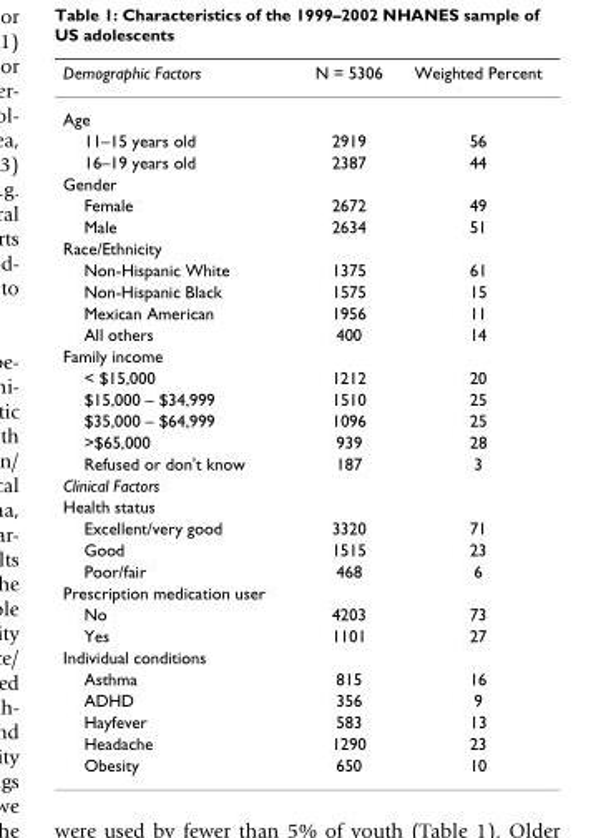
<table><thead><tr><td>Demographic Factors</td><td>N = 5306</td><td>Weighted Percent</td></tr></thead><tbody><tr><td colspan="3">Age</td></tr><tr><td>11–15 years old</td><td>2919</td><td>56</td></tr><tr><td>16–19 years old</td><td>2387</td><td>44</td></tr><tr><td colspan="3">Gender</td></tr><tr><td>Female</td><td>2672</td><td>49</td></tr><tr><td>Male</td><td>2634</td><td>51</td></tr><tr><td colspan="3">Race/Ethnicity</td></tr><tr><td>Non-Hispanic White</td><td>1375</td><td>61</td></tr><tr><td>Non-Hispanic Black</td><td>1575</td><td>15</td></tr><tr><td>Mexican American</td><td>1956</td><td>11</td></tr><tr><td>All others</td><td>400</td><td>14</td></tr><tr><td colspan="3">Family income</td></tr><tr><td>&lt; $15,000</td><td>1212</td><td>20</td></tr><tr><td>$15,000 – $34,999</td><td>1510</td><td>25</td></tr><tr><td>$35,000 – $64,999</td><td>1096</td><td>25</td></tr><tr><td>&gt;$65,000</td><td>939</td><td>28</td></tr><tr><td>Refused or don&#x27;t know</td><td>187</td><td>3</td></tr><tr><td colspan="3">Clinical Factors</td></tr><tr><td colspan="3">Health status</td></tr><tr><td>Excellent/very good</td><td>3320</td><td>71</td></tr><tr><td>Good</td><td>1515</td><td>23</td></tr><tr><td>Poor/fair</td><td>468</td><td>6</td></tr><tr><td colspan="3">Prescription medication user</td></tr><tr><td>No</td><td>4203</td><td>73</td></tr><tr><td>Yes</td><td>1101</td><td>27</td></tr><tr><td colspan="3">Individual conditions</td></tr><tr><td>Asthma</td><td>815</td><td>16</td></tr><tr><td>ADHD</td><td>356</td><td>9</td></tr><tr><td>Hayfever</td><td>583</td><td>13</td></tr><tr><td>Headache</td><td>1290</td><td>23</td></tr><tr><td>Obesity</td><td>650</td><td>10</td></tr></tbody></table>